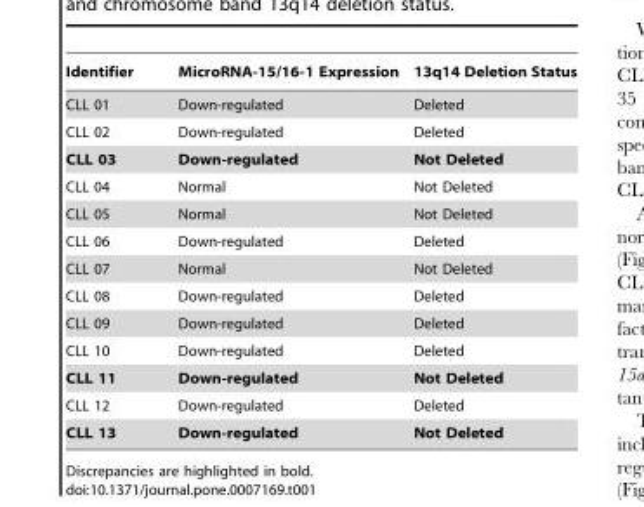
<table><thead><tr><td>Identifier</td><td>MicroRNA-15/16-1 Expression</td><td>13q14 Deletion Status</td></tr></thead><tbody><tr><td>CLL 01</td><td>Down-regulated</td><td>Deleted</td></tr><tr><td>CLL 02</td><td>Down-regulated</td><td>Deleted</td></tr><tr><td>CLL 03</td><td>Down-regulated</td><td>Not Deleted</td></tr><tr><td>CLL 04</td><td>Normal</td><td>Not Deleted</td></tr><tr><td>CLL 05</td><td>Normal</td><td>Not Deleted</td></tr><tr><td>CLL 06</td><td>Down-regulated</td><td>Deleted</td></tr><tr><td>CLL 07</td><td>Normal</td><td>Not Deleted</td></tr><tr><td>CLL 08</td><td>Down-regulated</td><td>Deleted</td></tr><tr><td>CLL 09</td><td>Down-regulated</td><td>Deleted</td></tr><tr><td>CLL 10</td><td>Down-regulated</td><td>Deleted</td></tr><tr><td>CLL 11</td><td>Down-regulated</td><td>Not Deleted</td></tr><tr><td>CLL 12</td><td>Down-regulated</td><td>Deleted</td></tr><tr><td>CLL 13</td><td>Down-regulated</td><td>Not Deleted</td></tr></tbody></table>